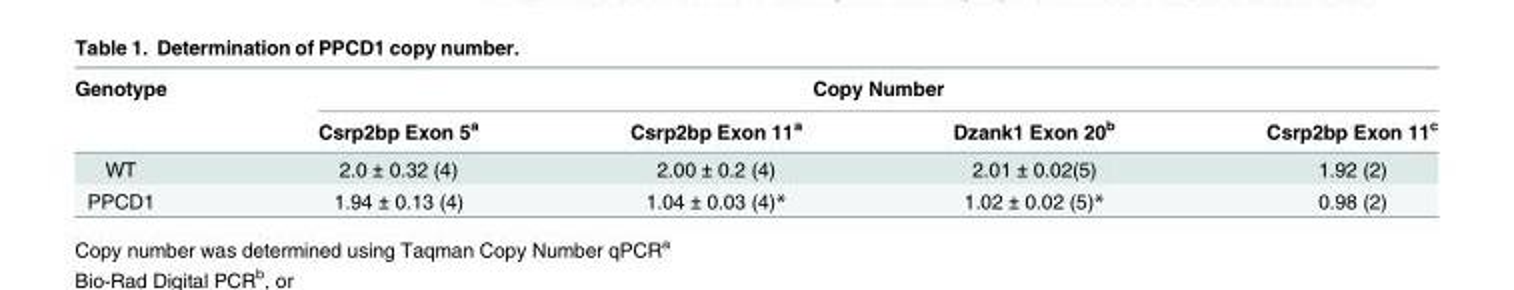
<table><thead><tr><td rowspan="2">Genotype</td><td colspan="4">Copy Number</td></tr><tr><td>Csrp2bp Exon 5<sup>a</sup></td><td>Csrp2bp Exon 11<sup>a</sup></td><td>Dzank1 Exon 20<sup>b</sup></td><td>Csrp2bp Exon 11<sup>c</sup></td></tr></thead><tbody><tr><td>WT</td><td>2.0 ± 0.32 (4)</td><td>2.00 ± 0.2 (4)</td><td>2.01 ± 0.02(5)</td><td>1.92 (2)</td></tr><tr><td>PPCD1</td><td>1.94 ± 0.13 (4)</td><td>1.04 ± 0.03 (4)*</td><td>1.02 ± 0.02 (5)*</td><td>0.98 (2)</td></tr></tbody></table>